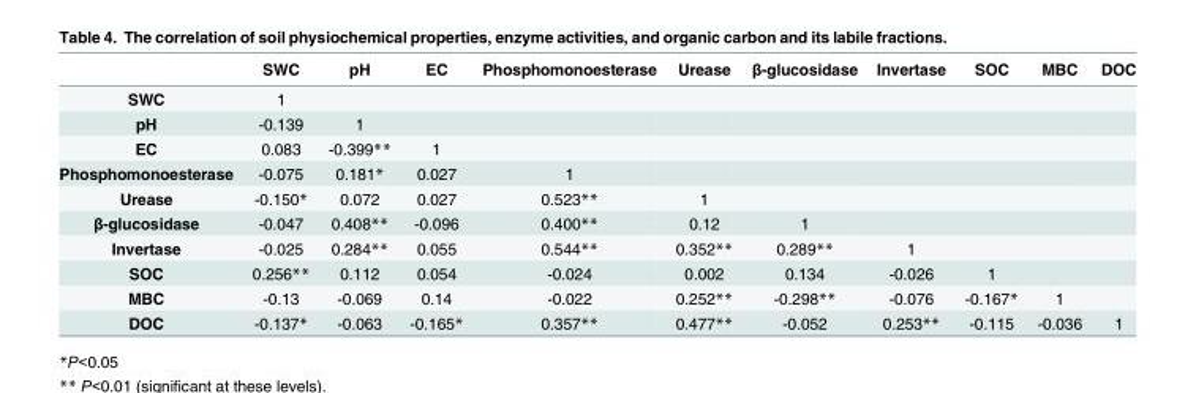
<table><thead><tr><td></td><td>SWC</td><td>pH</td><td>EC</td><td>Phosphomonoesterase</td><td>Urease</td><td>β-glucosidase</td><td>Invertase</td><td>SOC</td><td>MBC</td><td>DOC</td></tr></thead><tbody><tr><td>SWC</td><td>1</td><td></td><td></td><td></td><td></td><td></td><td></td><td></td><td></td><td></td></tr><tr><td>pH</td><td>-0.139</td><td>1</td><td></td><td></td><td></td><td></td><td></td><td></td><td></td><td></td></tr><tr><td>EC</td><td>0.083</td><td>-0.399**</td><td>1</td><td></td><td></td><td></td><td></td><td></td><td></td><td></td></tr><tr><td>Phosphomonoesterase</td><td>-0.075</td><td>0.181*</td><td>0.027</td><td>1</td><td></td><td></td><td></td><td></td><td></td><td></td></tr><tr><td>Urease</td><td>-0.150*</td><td>0.072</td><td>0.027</td><td>0.523**</td><td>1</td><td></td><td></td><td></td><td></td><td></td></tr><tr><td>β-glucosidase</td><td>-0.047</td><td>0.408**</td><td>-0.096</td><td>0.400**</td><td>0.12</td><td>1</td><td></td><td></td><td></td><td></td></tr><tr><td>Invertase</td><td>-0.025</td><td>0.284**</td><td>0.055</td><td>0.544**</td><td>0.352**</td><td>0.289**</td><td>1</td><td></td><td></td><td></td></tr><tr><td>SOC</td><td>0.256**</td><td>0.112</td><td>0.054</td><td>-0.024</td><td>0.002</td><td>0.134</td><td>-0.026</td><td>1</td><td></td><td></td></tr><tr><td>MBC</td><td>-0.13</td><td>-0.069</td><td>0.14</td><td>-0.022</td><td>0.252**</td><td>-0.298**</td><td>-0.076</td><td>-0.167*</td><td>1</td><td></td></tr><tr><td>DOC</td><td>-0.137*</td><td>-0.063</td><td>-0.165*</td><td>0.357**</td><td>0.477**</td><td>-0.052</td><td>0.253**</td><td>-0.115</td><td>-0.036</td><td>1</td></tr></tbody></table>